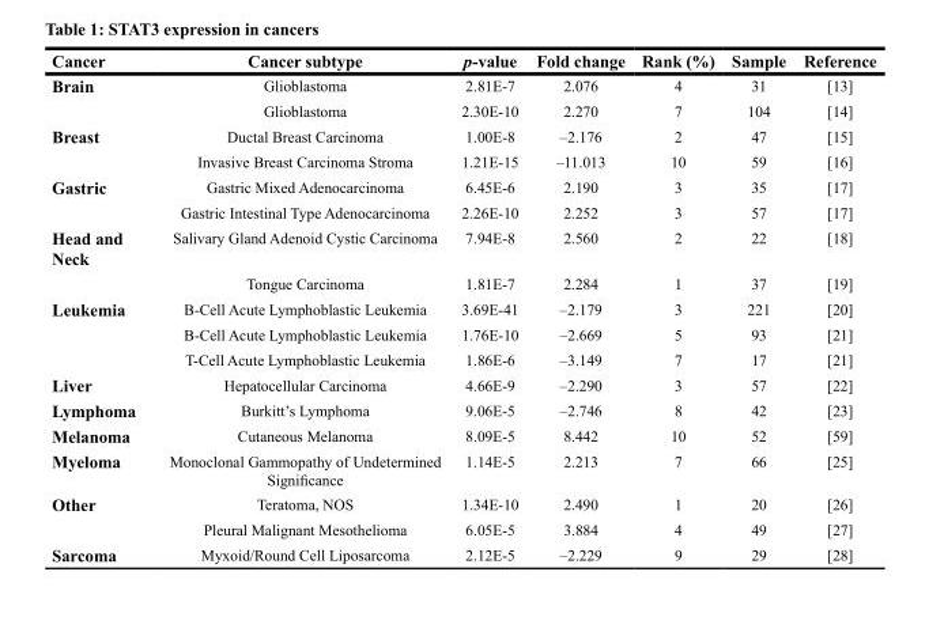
<table><thead><tr><td>Cancer</td><td>Cancer subtype</td><td>p-value</td><td>Fold change</td><td>Rank (%)</td><td>Sample</td><td>Reference</td></tr></thead><tbody><tr><td rowspan="2">Brain</td><td>Glioblastoma</td><td>2.81E-7</td><td>2.076</td><td>4</td><td>31</td><td>[13]</td></tr><tr><td>Glioblastoma</td><td>2.30E-10</td><td>2.270</td><td>7</td><td>104</td><td>[14]</td></tr><tr><td rowspan="2">Breast</td><td>Ductal Breast Carcinoma</td><td>1.00E-8</td><td>–2.176</td><td>2</td><td>47</td><td>[15]</td></tr><tr><td>Invasive Breast Carcinoma Stroma</td><td>1.21E-15</td><td>–11.013</td><td>10</td><td>59</td><td>[16]</td></tr><tr><td rowspan="2">Gastric</td><td>Gastric Mixed Adenocarcinoma</td><td>6.45E-6</td><td>2.190</td><td>3</td><td>35</td><td>[17]</td></tr><tr><td>Gastric Intestinal Type Adenocarcinoma</td><td>2.26E-10</td><td>2.252</td><td>3</td><td>57</td><td>[17]</td></tr><tr><td rowspan="2">Head and Neck</td><td>Salivary Gland Adenoid Cystic Carcinoma</td><td>7.94E-8</td><td>2.560</td><td>2</td><td>22</td><td>[18]</td></tr><tr><td>Tongue Carcinoma</td><td>1.81E-7</td><td>2.284</td><td>1</td><td>37</td><td>[19]</td></tr><tr><td rowspan="3">Leukemia</td><td>B-Cell Acute Lymphoblastic Leukemia</td><td>3.69E-41</td><td>–2.179</td><td>3</td><td>221</td><td>[20]</td></tr><tr><td>B-Cell Acute Lymphoblastic Leukemia</td><td>1.76E-10</td><td>–2.669</td><td>5</td><td>93</td><td>[21]</td></tr><tr><td>T-Cell Acute Lymphoblastic Leukemia</td><td>1.86E-6</td><td>–3.149</td><td>7</td><td>17</td><td>[21]</td></tr><tr><td>Liver</td><td>Hepatocellular Carcinoma</td><td>4.66E-9</td><td>–2.290</td><td>3</td><td>57</td><td>[22]</td></tr><tr><td>Lymphoma</td><td>Burkitt’s Lymphoma</td><td>9.06E-5</td><td>–2.746</td><td>8</td><td>42</td><td>[23]</td></tr><tr><td>Melanoma</td><td>Cutaneous Melanoma</td><td>8.09E-5</td><td>8.442</td><td>10</td><td>52</td><td>[59]</td></tr><tr><td>Myeloma</td><td>Monoclonal Gammopathy of Undetermined Significance</td><td>1.14E-5</td><td>2.213</td><td>7</td><td>66</td><td>[25]</td></tr><tr><td rowspan="2">Other</td><td>Teratoma, NOS</td><td>1.34E-10</td><td>2.490</td><td>1</td><td>20</td><td>[26]</td></tr><tr><td>Pleural Malignant Mesothelioma</td><td>6.05E-5</td><td>3.884</td><td>4</td><td>49</td><td>[27]</td></tr><tr><td>Sarcoma</td><td>Myxoid/Round Cell Liposarcoma</td><td>2.12E-5</td><td>–2.229</td><td>9</td><td>29</td><td>[28]</td></tr></tbody></table>